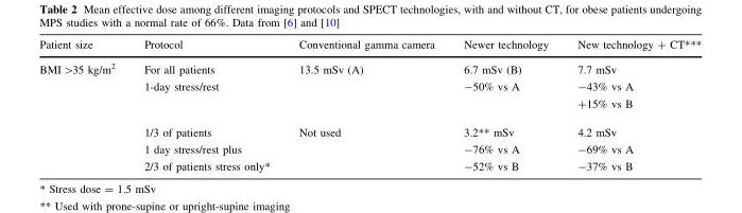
<table><thead><tr><td>Patient size</td><td>Protocol</td><td>Conventional gamma camera</td><td>Newer technology</td><td>New technology + CT***</td></tr></thead><tbody><tr><td rowspan="2">BMI &gt;35 kg/m<sup>2</sup></td><td>For all patients 1-day stress/rest</td><td>13.5 mSv (A)</td><td>6.7 mSv (B) -50% vs A</td><td>7.7 mSv -43% vs A +15% vs B</td></tr><tr><td>1/3 of patients 1 day stress/rest plus 2/3 of patients stress only*</td><td>Not used</td><td>3.2** mSv -76% vs A -52% vs B</td><td>4.2 mSv -69% vs A -37% vs B</td></tr></tbody></table>